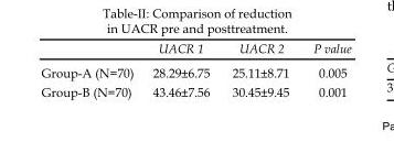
<table><thead><tr><td></td><td>UACR 1</td><td>UACR 2</td><td>P value</td></tr></thead><tbody><tr><td>Group-A (N=70)</td><td>28.29±6.75</td><td>25.11±8.71</td><td>0.005</td></tr><tr><td>Group-B (N=70)</td><td>43.46±7.56</td><td>30.45±9.45</td><td>0.001</td></tr></tbody></table>